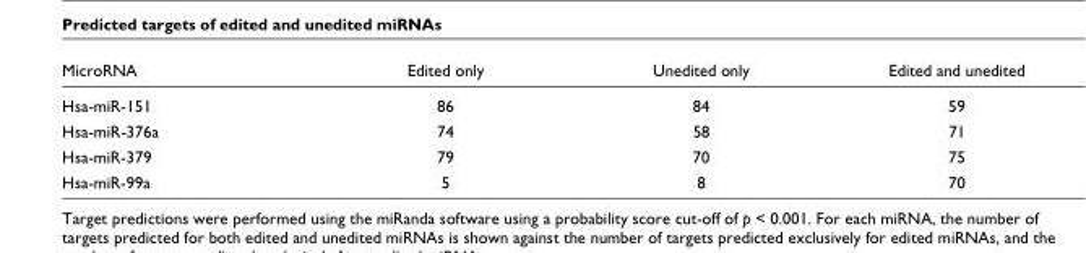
<table><thead><tr><td>MicroRNA</td><td>Edited only</td><td>Unedited only</td><td>Edited and unedited</td></tr></thead><tbody><tr><td>Hsa-miR-151</td><td>86</td><td>84</td><td>59</td></tr><tr><td>Hsa-miR-376a</td><td>74</td><td>58</td><td>71</td></tr><tr><td>Hsa-miR-379</td><td>79</td><td>70</td><td>75</td></tr><tr><td>Hsa-miR-99a</td><td>5</td><td>8</td><td>70</td></tr></tbody></table>